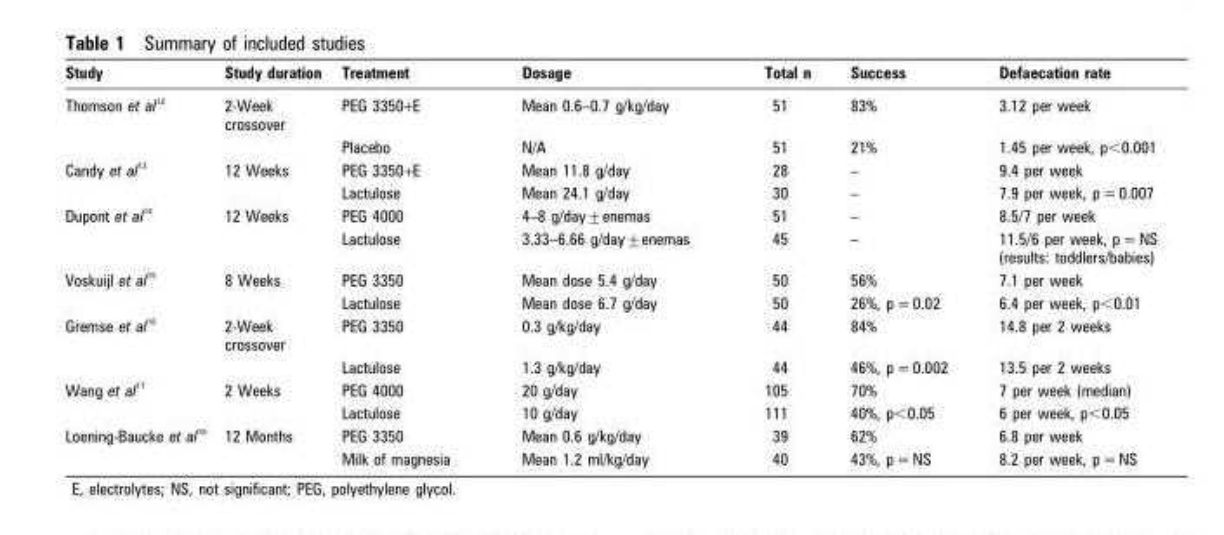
<table><thead><tr><td>Study</td><td>Study duration</td><td>Treatment</td><td>Dosage</td><td>Total n</td><td>Success</td><td>Defaecation rate</td></tr></thead><tbody><tr><td rowspan="2">Thomson et al <sup>12</sup></td><td>2-Week crossover</td><td>PEG 3350+E</td><td>Mean 0.6–0.7 g/kg/day</td><td>51</td><td>83%</td><td>3.12 per week</td></tr><tr><td></td><td>Placebo</td><td>N/A</td><td>51</td><td>21%</td><td>1.45 per week, p&lt;0.001</td></tr><tr><td rowspan="2">Candy et al <sup>13</sup></td><td>12 Weeks</td><td>PEG 3350+E</td><td>Mean 11.8 g/day</td><td>28</td><td>–</td><td>9.4 per week</td></tr><tr><td></td><td>Lactulose</td><td>Mean 24.1 g/day</td><td>30</td><td>–</td><td>7.9 per week, p = 0.007</td></tr><tr><td rowspan="2">Dupont et al <sup>14</sup></td><td>12 Weeks</td><td>PEG 4000</td><td>4–8 g/day±enemas</td><td>51</td><td>–</td><td>8.5/7 per week</td></tr><tr><td></td><td>Lactulose</td><td>3.33–6.66 g/day±enemas</td><td>45</td><td>–</td><td>11.5/6 per week, p = NS (results: toddlers/babies)</td></tr><tr><td rowspan="2">Voskuijl et al <sup>15</sup></td><td>8 Weeks</td><td>PEG 3350</td><td>Mean dose 5.4 g/day</td><td>50</td><td>56%</td><td>7.1 per week</td></tr><tr><td></td><td>Lactulose</td><td>Mean dose 6.7 g/day</td><td>50</td><td>26%, p = 0.02</td><td>6.4 per week, p&lt;0.01</td></tr><tr><td rowspan="2">Gremse et al <sup>16</sup></td><td>2-Week crossover</td><td>PEG 3350</td><td>0.3 g/kg/day</td><td>44</td><td>84%</td><td>14.8 per 2 weeks</td></tr><tr><td></td><td>Lactulose</td><td>1.3 g/kg/day</td><td>44</td><td>46%, p = 0.002</td><td>13.5 per 2 weeks</td></tr><tr><td rowspan="2">Wang et al <sup>17</sup></td><td>2 Weeks</td><td>PEG 4000</td><td>20 g/day</td><td>105</td><td>70%</td><td>7 per week (median)</td></tr><tr><td></td><td>Lactulose</td><td>10 g/day</td><td>111</td><td>40%, p&lt;0.05</td><td>6 per week, p&lt;0.05</td></tr><tr><td rowspan="2">Loening-Baucke et al <sup>18</sup></td><td>12 Months</td><td>PEG 3350</td><td>Mean 0.6 g/kg/day</td><td>39</td><td>62%</td><td>6.8 per week</td></tr><tr><td></td><td>Milk of magnesia</td><td>Mean 1.2 ml/kg/day</td><td>40</td><td>43%, p = NS</td><td>8.2 per week, p = NS</td></tr></tbody></table>